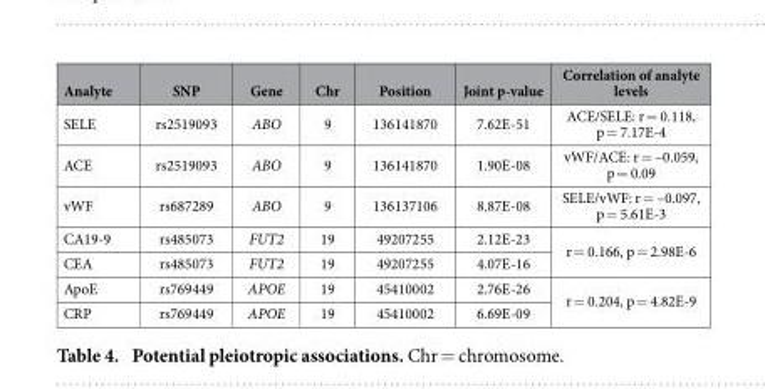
<table><thead><tr><td>Analyte</td><td>SNP</td><td>Gene</td><td>Chr</td><td>Position</td><td>Joint p-value</td><td>Correlation of analyte levels</td></tr></thead><tbody><tr><td>SELE</td><td>rs2519093</td><td>ABO</td><td>9</td><td>136141870</td><td>7.62E-51</td><td>ACE/SELE: r = 0.118, p = 7.17E-4</td></tr><tr><td>ACE</td><td>rs2519093</td><td>ABO</td><td>9</td><td>136141870</td><td>1.90E-08</td><td>vWF/ACE: r = –0.059, p = 0.09</td></tr><tr><td>vWF</td><td>rs687289</td><td>ABO</td><td>9</td><td>136137106</td><td>8.87E-08</td><td>SELE/vWF: r = –0.097, p = 5.61E-3</td></tr><tr><td>CA19-9</td><td>rs485073</td><td>FUT2</td><td>19</td><td>49207255</td><td>2.12E-23</td><td rowspan="2">r = 0.166, p = 2.98E-6</td></tr><tr><td>CEA</td><td>rs485073</td><td>FUT2</td><td>19</td><td>49207255</td><td>4.07E-16</td></tr><tr><td>ApoE</td><td>rs769449</td><td>APOE</td><td>19</td><td>45410002</td><td>2.76E-26</td><td rowspan="2">r = 0.204, p = 4.82E-9</td></tr><tr><td>CRP</td><td>rs769449</td><td>APOE</td><td>19</td><td>45410002</td><td>6.69E-09</td></tr></tbody></table>